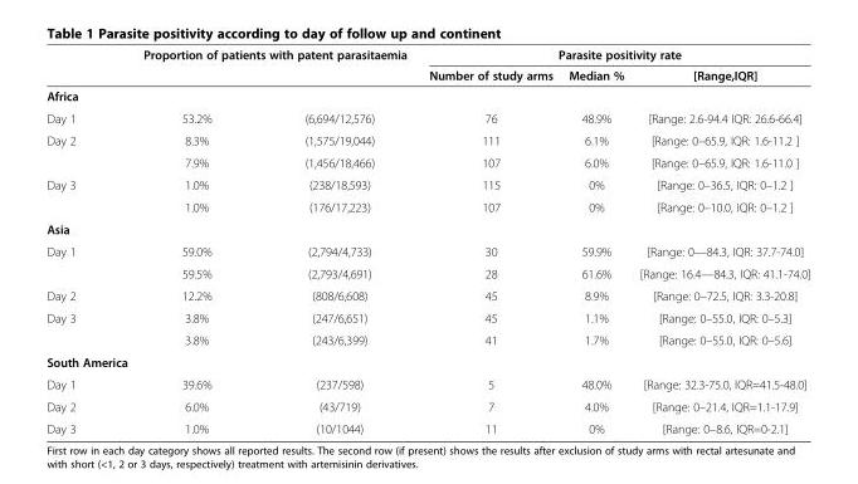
<table><thead><tr><td rowspan="2"></td><td colspan="2">Proportion of patients with patent parasitaemia</td><td colspan="3">Parasite positivity rate</td></tr><tr><td></td><td></td><td>Number of study arms</td><td>Median %</td><td>[Range,IQR]</td></tr></thead><tbody><tr><td colspan="6">Africa</td></tr><tr><td>Day 1</td><td>53.2%</td><td>(6,694/12,576)</td><td>76</td><td>48.9%</td><td>[Range: 2.6-94.4 IQR: 26.6-66.4]</td></tr><tr><td rowspan="2">Day 2</td><td>8.3%</td><td>(1,575/19,044)</td><td>111</td><td>6.1%</td><td>[Range: 0–65.9, IQR: 1.6-11.2 ]</td></tr><tr><td>7.9%</td><td>(1,456/18,466)</td><td>107</td><td>6.0%</td><td>[Range: 0–65.9, IQR: 1.6-11.0 ]</td></tr><tr><td rowspan="2">Day 3</td><td>1.0%</td><td>(238/18,593)</td><td>115</td><td>0%</td><td>[Range: 0–36.5, IQR: 0–1.2 ]</td></tr><tr><td>1.0%</td><td>(176/17,223)</td><td>107</td><td>0%</td><td>[Range: 0–10.0, IQR: 0–1.2 ]</td></tr><tr><td colspan="6">Asia</td></tr><tr><td rowspan="2">Day 1</td><td>59.0%</td><td>(2,794/4,733)</td><td>30</td><td>59.9%</td><td>[Range: 0—84.3, IQR: 37.7-74.0]</td></tr><tr><td>59.5%</td><td>(2,793/4,691)</td><td>28</td><td>61.6%</td><td>[Range: 16.4—84.3, IQR: 41.1-74.0]</td></tr><tr><td>Day 2</td><td>12.2%</td><td>(808/6,608)</td><td>45</td><td>8.9%</td><td>[Range: 0–72.5, IQR: 3.3-20.8]</td></tr><tr><td rowspan="2">Day 3</td><td>3.8%</td><td>(247/6,651)</td><td>45</td><td>1.1%</td><td>[Range: 0–55.0, IQR: 0–5.3]</td></tr><tr><td>3.8%</td><td>(243/6,399)</td><td>41</td><td>1.7%</td><td>[Range: 0–55.0, IQR: 0–5.6]</td></tr><tr><td colspan="6">South America</td></tr><tr><td>Day 1</td><td>39.6%</td><td>(237/598)</td><td>5</td><td>48.0%</td><td>[Range: 32.3-75.0, IQR=41.5-48.0]</td></tr><tr><td>Day 2</td><td>6.0%</td><td>(43/719)</td><td>7</td><td>4.0%</td><td>[Range: 0–21.4, IQR=1.1-17.9]</td></tr><tr><td>Day 3</td><td>1.0%</td><td>(10/1044)</td><td>11</td><td>0%</td><td>[Range: 0–8.6, IQR=0-2.1]</td></tr></tbody></table>